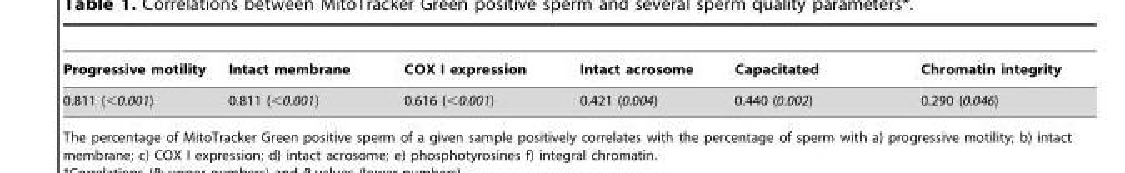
<table><thead><tr><td>Progressive motility</td><td>Intact membrane</td><td>COX I expression</td><td>Intact acrosome</td><td>Capacitated</td><td>Chromatin integrity</td></tr></thead><tbody><tr><td>0.811 (&lt;0.001)</td><td>0.811 (&lt;0.001)</td><td>0.616 (&lt;0.001)</td><td>0.421 (0.004)</td><td>0.440 (0.002)</td><td>0.290 (0.046)</td></tr></tbody></table>